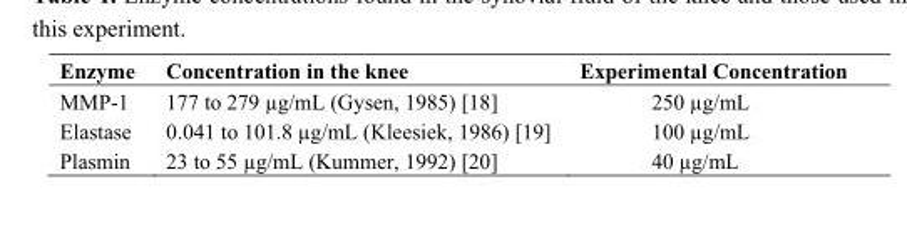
<table><thead><tr><td>Enzyme</td><td>Concentration in the knee</td><td>Experimental Concentration</td></tr></thead><tbody><tr><td>MMP-1</td><td>177 to 279 µg/mL (Gysen, 1985) [18]</td><td>250 µg/mL</td></tr><tr><td>Elastase</td><td>0.041 to 101.8 µg/mL (Kleesiek, 1986) [19]</td><td>100 µg/mL</td></tr><tr><td>Plasmin</td><td>23 to 55 µg/mL (Kummer, 1992) [20]</td><td>40 µg/mL</td></tr></tbody></table>